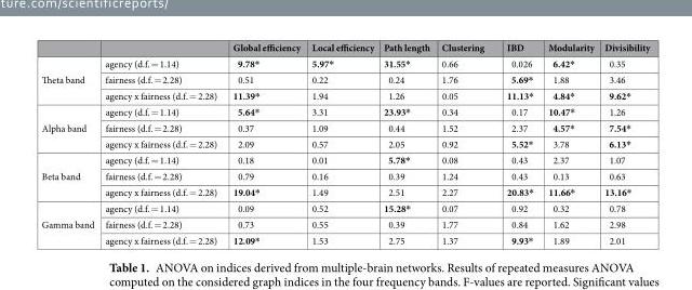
<table><thead><tr><td></td><td></td><td>Global efficiency</td><td>Local efficiency</td><td>Path length</td><td>Clustering</td><td>IBD</td><td>Modularity</td><td>Divisibility</td></tr></thead><tbody><tr><td rowspan="3">Theta band</td><td>agency (d.f. = 1.14)</td><td>9.78*</td><td>5.97*</td><td>31.55*</td><td>0.66</td><td>0.026</td><td>6.42*</td><td>0.35</td></tr><tr><td>fairness (d.f. = 2.28)</td><td>0.51</td><td>0.22</td><td>0.24</td><td>1.76</td><td>5.69*</td><td>1.88</td><td>3.46</td></tr><tr><td>agency x fairness (d.f. = 2.28)</td><td>11.39*</td><td>1.94</td><td>1.26</td><td>0.05</td><td>11.13*</td><td>4.84*</td><td>9.62*</td></tr><tr><td rowspan="3">Alpha band</td><td>agency (d.f. = 1.14)</td><td>5.64*</td><td>3.31</td><td>23.93*</td><td>0.34</td><td>0.17</td><td>10.47*</td><td>1.26</td></tr><tr><td>fairness (d.f. = 2.28)</td><td>0.37</td><td>1.09</td><td>0.44</td><td>1.52</td><td>2.37</td><td>4.57*</td><td>7.54*</td></tr><tr><td>agency x fairness (d.f. = 2.28)</td><td>2.09</td><td>0.57</td><td>2.05</td><td>0.92</td><td>5.52*</td><td>3.78</td><td>6.13*</td></tr><tr><td rowspan="3">Beta band</td><td>agency (d.f. = 1.14)</td><td>0.18</td><td>0.01</td><td>5.78*</td><td>0.08</td><td>0.43</td><td>2.37</td><td>1.07</td></tr><tr><td>fairness (d.f. = 2.28)</td><td>0.79</td><td>0.16</td><td>0.39</td><td>1.24</td><td>0.43</td><td>0.13</td><td>0.63</td></tr><tr><td>agency x fairness (d.f. = 2.28)</td><td>19.04*</td><td>1.49</td><td>2.51</td><td>2.27</td><td>20.83*</td><td>11.66*</td><td>13.16*</td></tr><tr><td rowspan="3">Gamma band</td><td>agency (d.f. = 1.14)</td><td>0.09</td><td>0.52</td><td>15.28*</td><td>0.07</td><td>0.92</td><td>0.32</td><td>0.78</td></tr><tr><td>fairness (d.f. = 2.28)</td><td>0.73</td><td>0.55</td><td>0.39</td><td>1.77</td><td>0.84</td><td>1.62</td><td>2.98</td></tr><tr><td>agency x fairness (d.f. = 2.28)</td><td>12.09*</td><td>1.53</td><td>2.75</td><td>1.37</td><td>9.93*</td><td>1.89</td><td>2.01</td></tr></tbody></table>